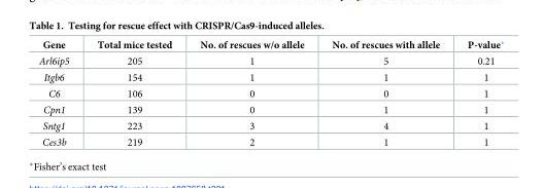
<table><thead><tr><td>Gene</td><td>Total mice tested</td><td>No. of rescues w/o allele</td><td>No. of rescues with allele</td><td>P-value*</td></tr></thead><tbody><tr><td>Arl6ip5</td><td>205</td><td>1</td><td>5</td><td>0.21</td></tr><tr><td>Itgb6</td><td>154</td><td>1</td><td>1</td><td>1</td></tr><tr><td>C6</td><td>106</td><td>0</td><td>0</td><td>1</td></tr><tr><td>Cpn1</td><td>139</td><td>0</td><td>1</td><td>1</td></tr><tr><td>Sntg1</td><td>223</td><td>3</td><td>4</td><td>1</td></tr><tr><td>Ces3b</td><td>219</td><td>2</td><td>1</td><td>1</td></tr></tbody></table>